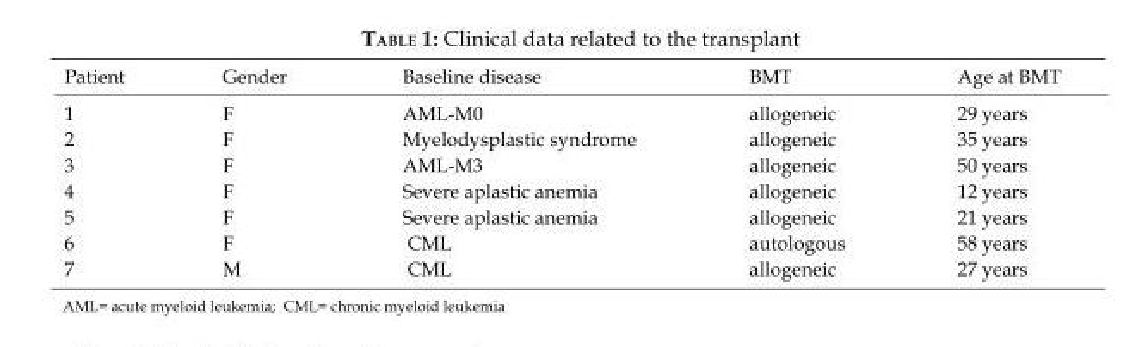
<table><thead><tr><td>Patient</td><td>Gender</td><td>Baseline disease</td><td>BMT</td><td>Age at BMT</td></tr></thead><tbody><tr><td>1</td><td>F</td><td>AML-M0</td><td>allogeneic</td><td>29 years</td></tr><tr><td>2</td><td>F</td><td>Myelodysplastic syndrome</td><td>allogeneic</td><td>35 years</td></tr><tr><td>3</td><td>F</td><td>AML-M3</td><td>allogeneic</td><td>50 years</td></tr><tr><td>4</td><td>F</td><td>Severe aplastic anemia</td><td>allogeneic</td><td>12 years</td></tr><tr><td>5</td><td>F</td><td>Severe aplastic anemia</td><td>allogeneic</td><td>21 years</td></tr><tr><td>6</td><td>F</td><td>CML</td><td>autologous</td><td>58 years</td></tr><tr><td>7</td><td>M</td><td>CML</td><td>allogeneic</td><td>27 years</td></tr></tbody></table>